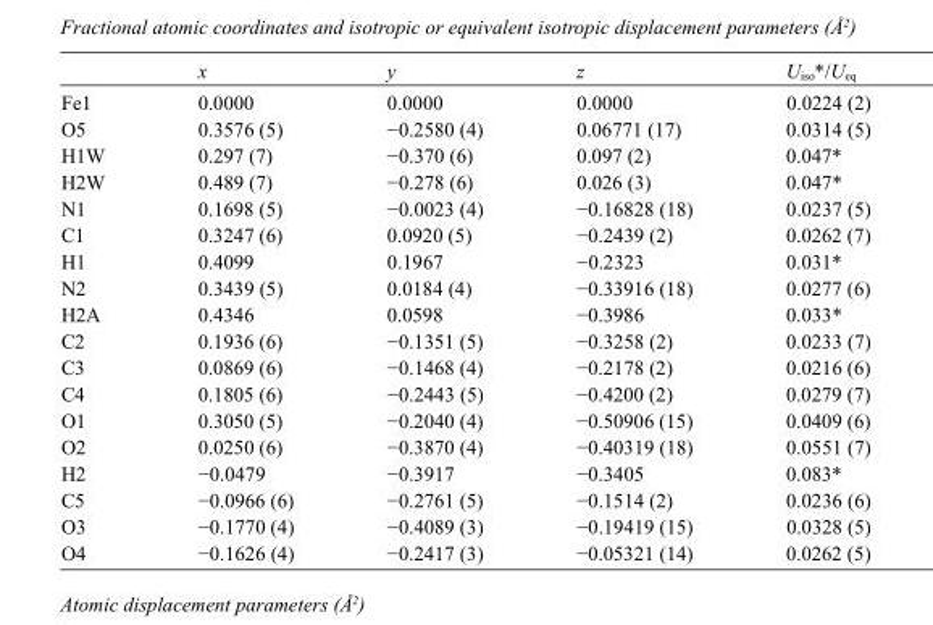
<table><thead><tr><td></td><td>x</td><td>y</td><td>z</td><td>U<sub>iso</sub>*/U<sub>eq</sub></td></tr></thead><tbody><tr><td>Fe1</td><td>0.0000</td><td>0.0000</td><td>0.0000</td><td>0.0224 (2)</td></tr><tr><td>O5</td><td>0.3576 (5)</td><td>−0.2580 (4)</td><td>0.06771 (17)</td><td>0.0314 (5)</td></tr><tr><td>H1W</td><td>0.297 (7)</td><td>−0.370 (6)</td><td>0.097 (2)</td><td>0.047*</td></tr><tr><td>H2W</td><td>0.489 (7)</td><td>−0.278 (6)</td><td>0.026 (3)</td><td>0.047*</td></tr><tr><td>N1</td><td>0.1698 (5)</td><td>−0.0023 (4)</td><td>−0.16828 (18)</td><td>0.0237 (5)</td></tr><tr><td>C1</td><td>0.3247 (6)</td><td>0.0920 (5)</td><td>−0.2439 (2)</td><td>0.0262 (7)</td></tr><tr><td>H1</td><td>0.4099</td><td>0.1967</td><td>−0.2323</td><td>0.031*</td></tr><tr><td>N2</td><td>0.3439 (5)</td><td>0.0184 (4)</td><td>−0.33916 (18)</td><td>0.0277 (6)</td></tr><tr><td>H2A</td><td>0.4346</td><td>0.0598</td><td>−0.3986</td><td>0.033*</td></tr><tr><td>C2</td><td>0.1936 (6)</td><td>−0.1351 (5)</td><td>−0.3258 (2)</td><td>0.0233 (7)</td></tr><tr><td>C3</td><td>0.0869 (6)</td><td>−0.1468 (4)</td><td>−0.2178 (2)</td><td>0.0216 (6)</td></tr><tr><td>C4</td><td>0.1805 (6)</td><td>−0.2443 (5)</td><td>−0.4200 (2)</td><td>0.0279 (7)</td></tr><tr><td>O1</td><td>0.3050 (5)</td><td>−0.2040 (4)</td><td>−0.50906 (15)</td><td>0.0409 (6)</td></tr><tr><td>O2</td><td>0.0250 (6)</td><td>−0.3870 (4)</td><td>−0.40319 (18)</td><td>0.0551 (7)</td></tr><tr><td>H2</td><td>−0.0479</td><td>−0.3917</td><td>−0.3405</td><td>0.083*</td></tr><tr><td>C5</td><td>−0.0966 (6)</td><td>−0.2761 (5)</td><td>−0.1514 (2)</td><td>0.0236 (6)</td></tr><tr><td>O3</td><td>−0.1770 (4)</td><td>−0.4089 (3)</td><td>−0.19419 (15)</td><td>0.0328 (5)</td></tr><tr><td>O4</td><td>−0.1626 (4)</td><td>−0.2417 (3)</td><td>−0.05321 (14)</td><td>0.0262 (5)</td></tr></tbody></table>